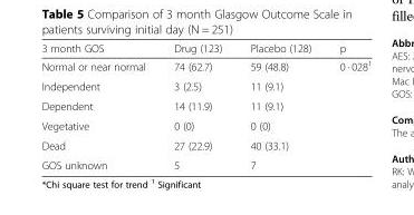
<table><thead><tr><td>3 month GOS</td><td>Drug (123)</td><td>Placebo (128)</td><td>p</td></tr></thead><tbody><tr><td>Normal or near normal</td><td>74 (62.7)</td><td>59 (48.8)</td><td rowspan="5">0 · 028<sup>1</sup></td></tr><tr><td>Independent</td><td>3 (2.5)</td><td>11 (9.1)</td></tr><tr><td>Dependent</td><td>14 (11.9)</td><td>11 (9.1)</td></tr><tr><td>Vegetative</td><td>0 (0)</td><td>0 (0)</td></tr><tr><td>Dead</td><td>27 (22.9)</td><td>40 (33.1)</td></tr><tr><td>GOS unknown</td><td>5</td><td>7</td><td></td></tr></tbody></table>